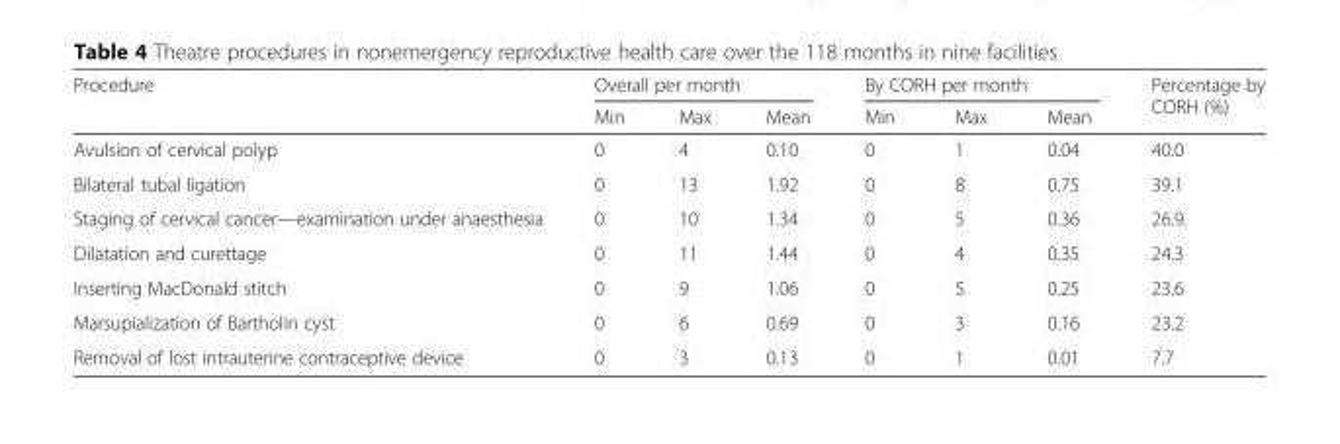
<table><thead><tr><td rowspan="2">Procedure</td><td colspan="3">Overall per month</td><td colspan="3">By CORH per month</td><td rowspan="2">Percentage by CORH (%)</td></tr><tr><td>Min</td><td>Max</td><td>Mean</td><td>Min</td><td>Max</td><td>Mean</td></tr></thead><tbody><tr><td>Avulsion of cervical polyp</td><td>0</td><td>4</td><td>0.10</td><td>0</td><td>1</td><td>0.04</td><td>40.0</td></tr><tr><td>Bilateral tubal ligation</td><td>0</td><td>13</td><td>1.92</td><td>0</td><td>8</td><td>0.75</td><td>39.1</td></tr><tr><td>Staging of cervical cancer—examination under anaesthesia</td><td>0</td><td>10</td><td>1.34</td><td>0</td><td>5</td><td>0.36</td><td>26.9.</td></tr><tr><td>Dilatation and curettage</td><td>0</td><td>11</td><td>1.44</td><td>0</td><td>4</td><td>0.35</td><td>24.3</td></tr><tr><td>Inserting MacDonald stitch</td><td>0</td><td>9</td><td>1.06</td><td>0</td><td>5</td><td>0.25</td><td>23.6</td></tr><tr><td>Marsupialization of Bartholin cyst</td><td>0</td><td>6</td><td>0.69</td><td>0</td><td>3</td><td>0.16</td><td>23.2</td></tr><tr><td>Removal of lost intrauterine contraceptive device</td><td>0</td><td>3</td><td>0.13</td><td>0</td><td>1</td><td>0.01</td><td>7.7</td></tr></tbody></table>